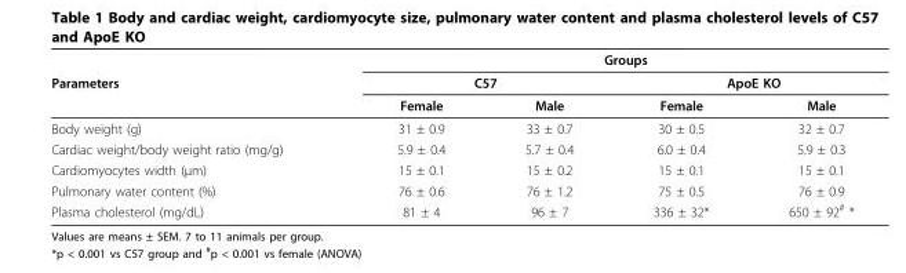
<table><thead><tr><td rowspan="3">Parameters</td><td colspan="4">Groups</td></tr><tr><td colspan="2">C57</td><td colspan="2">ApoE KO</td></tr><tr><td>Female</td><td>Male</td><td>Female</td><td>Male</td></tr></thead><tbody><tr><td>Body weight (g)</td><td>31 ± 0.9</td><td>33 ± 0.7</td><td>30 ± 0.5</td><td>32 ± 0.7</td></tr><tr><td>Cardiac weight/body weight ratio (mg/g)</td><td>5.9 ± 0.4</td><td>5.7 ± 0.4</td><td>6.0 ± 0.4</td><td>5.9 ± 0.3</td></tr><tr><td>Cardiomyocytes width (μm)</td><td>15 ± 0.1</td><td>15 ± 0.2</td><td>15 ± 0.1</td><td>15 ± 0.1</td></tr><tr><td>Pulmonary water content (%)</td><td>76 ± 0.6</td><td>76 ± 1.2</td><td>75 ± 0.5</td><td>76 ± 0.9</td></tr><tr><td>Plasma cholesterol (mg/dL)</td><td>81 ± 4</td><td>96 ± 7</td><td>336 ± 32*</td><td>650 ± 92<sup>#</sup> *</td></tr></tbody></table>